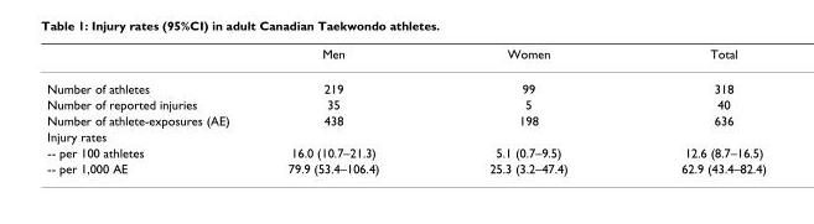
<table><thead><tr><td></td><td>Men</td><td>Women</td><td>Total</td></tr></thead><tbody><tr><td>Number of athletes</td><td>219</td><td>99</td><td>318</td></tr><tr><td>Number of reported injuries</td><td>35</td><td>5</td><td>40</td></tr><tr><td>Number of athlete-exposures (AE)</td><td>438</td><td>198</td><td>636</td></tr><tr><td colspan="4">Injury rates</td></tr><tr><td>-- per 100 athletes</td><td>16.0 (10.7–21.3)</td><td>5.1 (0.7–9.5)</td><td>12.6 (8.7–16.5)</td></tr><tr><td>-- per 1,000 AE</td><td>79.9 (53.4–106.4)</td><td>25.3 (3.2–47.4)</td><td>62.9 (43.4–82.4)</td></tr></tbody></table>